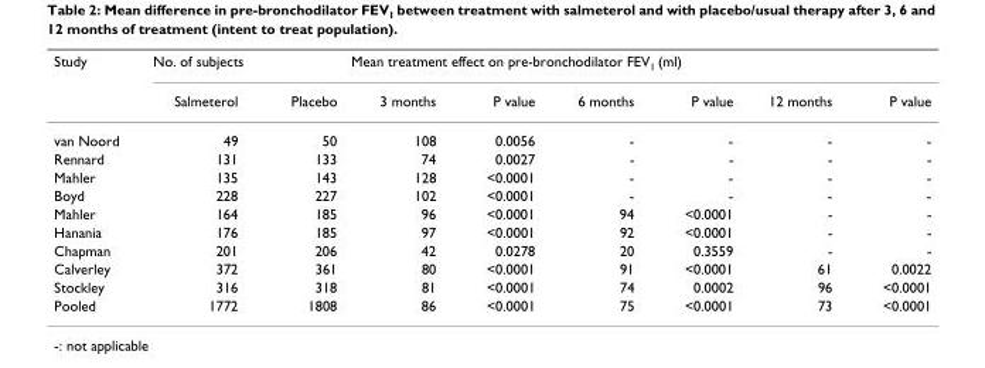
<table><thead><tr><td rowspan="2">Study</td><td colspan="2">No. of subjects</td><td colspan="6">Mean treatment effect on pre-bronchodilator FEV<sub>1</sub> (ml)</td></tr><tr><td>Salmeterol</td><td>Placebo</td><td>3 months</td><td>P value</td><td>6 months</td><td>P value</td><td>12 months</td><td>P value</td></tr></thead><tbody><tr><td>van Noord</td><td>49</td><td>50</td><td>108</td><td>0.0056</td><td>-</td><td>-</td><td>-</td><td>-</td></tr><tr><td>Rennard</td><td>131</td><td>133</td><td>74</td><td>0.0027</td><td>-</td><td>-</td><td>-</td><td>-</td></tr><tr><td>Mahler</td><td>135</td><td>143</td><td>128</td><td>&lt;0.0001</td><td>-</td><td>-</td><td>-</td><td>-</td></tr><tr><td>Boyd</td><td>228</td><td>227</td><td>102</td><td>&lt;0.0001</td><td>-</td><td>-</td><td>-</td><td>-</td></tr><tr><td>Mahler</td><td>164</td><td>185</td><td>96</td><td>&lt;0.0001</td><td>94</td><td>&lt;0.0001</td><td>-</td><td>-</td></tr><tr><td>Hanania</td><td>176</td><td>185</td><td>97</td><td>&lt;0.0001</td><td>92</td><td>&lt;0.0001</td><td>-</td><td>-</td></tr><tr><td>Chapman</td><td>201</td><td>206</td><td>42</td><td>0.0278</td><td>20</td><td>0.3559</td><td>-</td><td>-</td></tr><tr><td>Calverley</td><td>372</td><td>361</td><td>80</td><td>&lt;0.0001</td><td>91</td><td>&lt;0.0001</td><td>61</td><td>0.0022</td></tr><tr><td>Stockley</td><td>316</td><td>318</td><td>81</td><td>&lt;0.0001</td><td>74</td><td>0.0002</td><td>96</td><td>&lt;0.0001</td></tr><tr><td>Pooled</td><td>1772</td><td>1808</td><td>86</td><td>&lt;0.0001</td><td>75</td><td>&lt;0.0001</td><td>73</td><td>&lt;0.0001</td></tr></tbody></table>